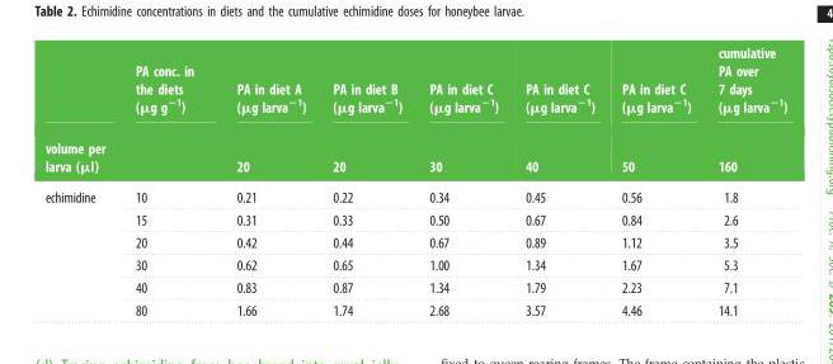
<table><thead><tr><td rowspan="2">volume per larva (µl)</td><td rowspan="2">PA conc. in the diets (µg g<sup>−1</sup>)</td><td rowspan="2">PA in diet A (µg larva<sup>−1</sup>) 20</td><td rowspan="2">PA in diet B (µg larva<sup>−1</sup>) 20</td><td rowspan="2">PA in diet C (µg larva<sup>−1</sup>) 30</td><td rowspan="2">PA in diet C (µg larva<sup>−1</sup>) 40</td><td rowspan="2">PA in diet C (µg larva<sup>−1</sup>) 50</td><td rowspan="2">cumulative PA over 7 days (µg larva<sup>−1</sup>) 160</td></tr><tr></tr></thead><tbody><tr><td rowspan="6">echimidine</td><td>10</td><td>0.21</td><td>0.22</td><td>0.34</td><td>0.45</td><td>0.56</td><td>1.8</td></tr><tr><td>15</td><td>0.31</td><td>0.33</td><td>0.50</td><td>0.67</td><td>0.84</td><td>2.6</td></tr><tr><td>20</td><td>0.42</td><td>0.44</td><td>0.67</td><td>0.89</td><td>1.12</td><td>3.5</td></tr><tr><td>30</td><td>0.62</td><td>0.65</td><td>1.00</td><td>1.34</td><td>1.67</td><td>5.3</td></tr><tr><td>40</td><td>0.83</td><td>0.87</td><td>1.34</td><td>1.79</td><td>2.23</td><td>7.1</td></tr><tr><td>80</td><td>1.66</td><td>1.74</td><td>2.68</td><td>3.57</td><td>4.46</td><td>14.1</td></tr></tbody></table>